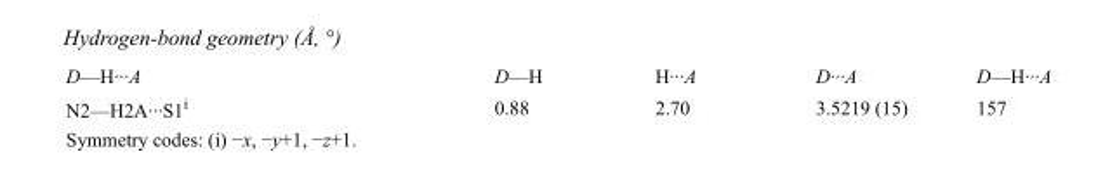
<table><tbody><tr><td>D—H···A</td><td>D—H</td><td>H···A</td><td>D···A</td><td>D—H···A</td></tr><tr><td>N2—H2A···S1<sup>i</sup></td><td>0.88</td><td>2.70</td><td>3.5219 (15)</td><td>157</td></tr></tbody></table>